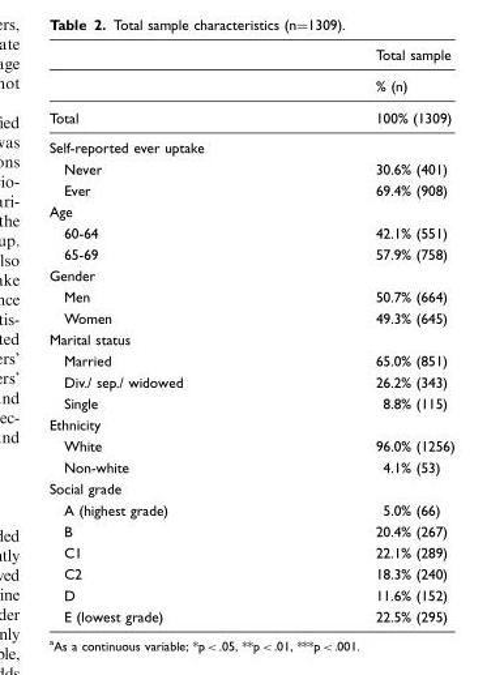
<table><thead><tr><td rowspan="3">Total</td><td rowspan="3">Total sample % (n) 100% (1309)</td></tr><tr></tr><tr></tr></thead><tbody><tr><td colspan="2">Self-reported ever uptake</td></tr><tr><td>Never</td><td>30.6% (401)</td></tr><tr><td>Ever</td><td>69.4% (908)</td></tr><tr><td colspan="2">Age</td></tr><tr><td>60-64</td><td>42.1% (551)</td></tr><tr><td>65-69</td><td>57.9% (758)</td></tr><tr><td colspan="2">Gender</td></tr><tr><td>Men</td><td>50.7% (664)</td></tr><tr><td>Women</td><td>49.3% (645)</td></tr><tr><td colspan="2">Marital status</td></tr><tr><td>Married</td><td>65.0% (851)</td></tr><tr><td>Div./ sep./ widowed</td><td>26.2% (343)</td></tr><tr><td>Single</td><td>8.8% (115)</td></tr><tr><td colspan="2">Ethnicity</td></tr><tr><td>White</td><td>96.0% (1256)</td></tr><tr><td>Non-white</td><td>4.1% (53)</td></tr><tr><td colspan="2">Social grade</td></tr><tr><td>A (highest grade)</td><td>5.0% (66)</td></tr><tr><td>B</td><td>20.4% (267)</td></tr><tr><td>C1</td><td>22.1% (289)</td></tr><tr><td>C2</td><td>18.3% (240)</td></tr><tr><td>D</td><td>11.6% (152)</td></tr><tr><td>E (lowest grade)</td><td>22.5% (295)</td></tr></tbody></table>